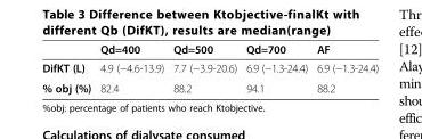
<table><thead><tr><td></td><td>Qd=400</td><td>Qd=500</td><td>Qd=700</td><td>AF</td></tr></thead><tbody><tr><td>DifKT (L)</td><td>4.9 (−4.6-13.9)</td><td>7.7 (−3.9-20.6)</td><td>6.9 (−1.3-24.4)</td><td>6.9 (−1.3-24.4)</td></tr><tr><td>% obj (%)</td><td>82.4</td><td>88.2</td><td>94.1</td><td>88.2</td></tr></tbody></table>